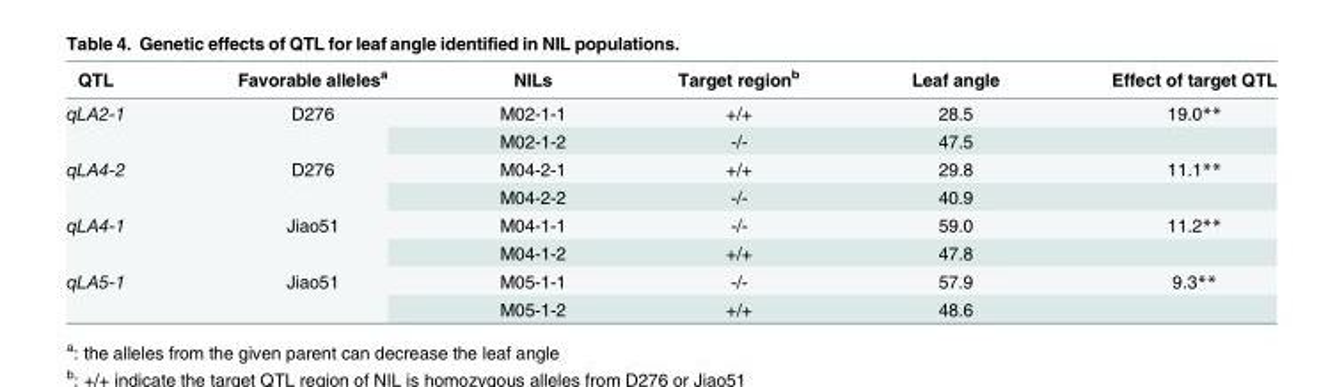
<table><thead><tr><td>QTL</td><td>Favorable alleles<sup>a</sup></td><td>NILs</td><td>Target region<sup>b</sup></td><td>Leaf angle</td><td>Effect of target QTL</td></tr></thead><tbody><tr><td rowspan="2">qLA2-1</td><td rowspan="2">D276</td><td>M02-1-1</td><td>+/+</td><td>28.5</td><td>19.0**</td></tr><tr><td>M02-1-2</td><td>-/-</td><td>47.5</td><td></td></tr><tr><td rowspan="2">qLA4-2</td><td rowspan="2">D276</td><td>M04-2-1</td><td>+/+</td><td>29.8</td><td>11.1**</td></tr><tr><td>M04-2-2</td><td>-/-</td><td>40.9</td><td></td></tr><tr><td rowspan="2">qLA4-1</td><td rowspan="2">Jiao51</td><td>M04-1-1</td><td>-/-</td><td>59.0</td><td>11.2**</td></tr><tr><td>M04-1-2</td><td>+/+</td><td>47.8</td><td></td></tr><tr><td rowspan="2">qLA5-1</td><td rowspan="2">Jiao51</td><td>M05-1-1</td><td>-/-</td><td>57.9</td><td>9.3**</td></tr><tr><td>M05-1-2</td><td>+/+</td><td>48.6</td><td></td></tr></tbody></table>